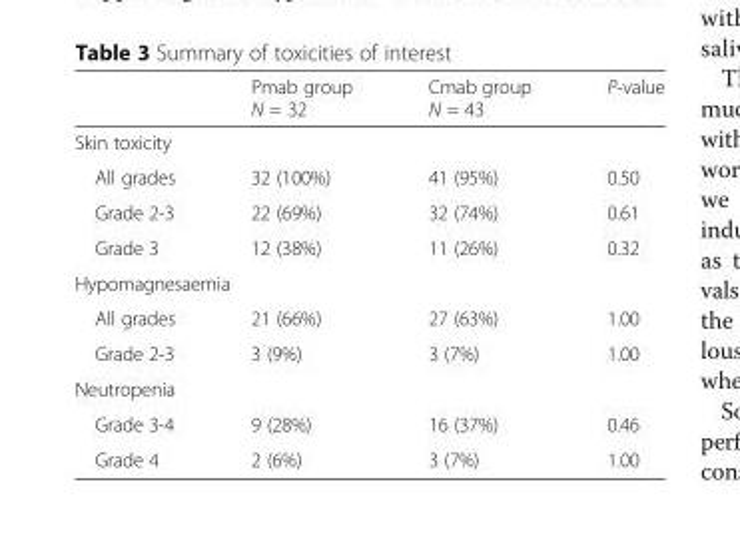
<table><thead><tr><td></td><td>Pmab group N = 32</td><td>Cmab group N = 43</td><td>P-value</td></tr></thead><tbody><tr><td colspan="4">Skin toxicity</td></tr><tr><td>All grades</td><td>32 (100%)</td><td>41 (95%)</td><td>0.50</td></tr><tr><td>Grade 2-3</td><td>22 (69%)</td><td>32 (74%)</td><td>0.61</td></tr><tr><td>Grade 3</td><td>12 (38%)</td><td>11 (26%)</td><td>0.32</td></tr><tr><td colspan="4">Hypomagnesaemia</td></tr><tr><td>All grades</td><td>21 (66%)</td><td>27 (63%)</td><td>1.00</td></tr><tr><td>Grade 2-3</td><td>3 (9%)</td><td>3 (7%)</td><td>1.00</td></tr><tr><td colspan="4">Neutropenia</td></tr><tr><td>Grade 3-4</td><td>9 (28%)</td><td>16 (37%)</td><td>0.46</td></tr><tr><td>Grade 4</td><td>2 (6%)</td><td>3 (7%)</td><td>1.00</td></tr></tbody></table>